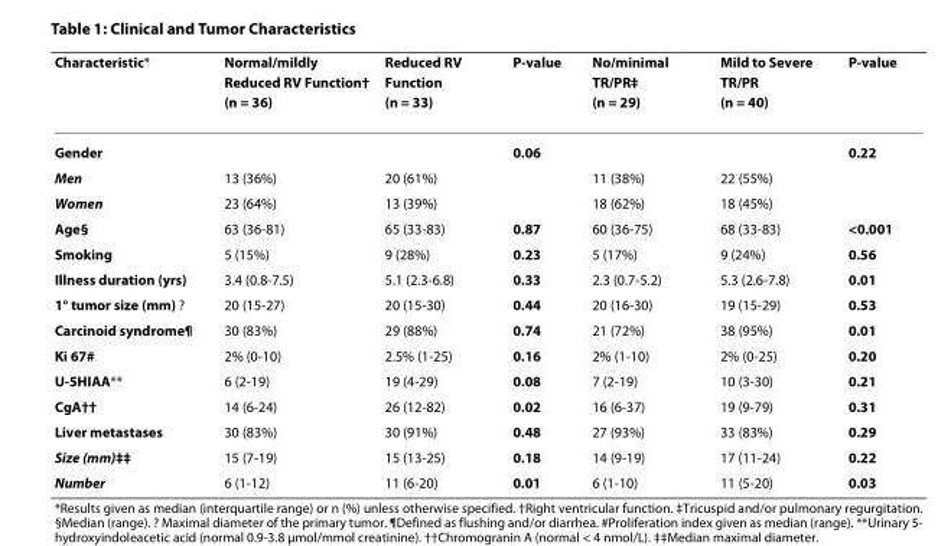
<table><thead><tr><td>Characteristic*</td><td>Normal/mildly Reduced RV Function† (n = 36)</td><td>Reduced RV Function (n = 33)</td><td>P-value</td><td>No/minimal TR/PR‡ (n = 29)</td><td>Mild to Severe TR/PR (n = 40)</td><td>P-value</td></tr></thead><tbody><tr><td>Gender</td><td></td><td></td><td>0.06</td><td></td><td></td><td>0.22</td></tr><tr><td>Men</td><td>13 (36%)</td><td>20 (61%)</td><td></td><td>11 (38%)</td><td>22 (55%)</td><td></td></tr><tr><td>Women</td><td>23 (64%)</td><td>13 (39%)</td><td></td><td>18 (62%)</td><td>18 (45%)</td><td></td></tr><tr><td>Age§</td><td>63 (36-81)</td><td>65 (33-83)</td><td>0.87</td><td>60 (36-75)</td><td>68 (33-83)</td><td>&lt;0.001</td></tr><tr><td>Smoking</td><td>5 (15%)</td><td>9 (28%)</td><td>0.23</td><td>5 (17%)</td><td>9 (24%)</td><td>0.56</td></tr><tr><td>Illness duration (yrs)</td><td>3.4 (0.8-7.5)</td><td>5.1 (2.3-6.8)</td><td>0.33</td><td>2.3 (0.7-5.2)</td><td>5.3 (2.6-7.8)</td><td>0.01</td></tr><tr><td>1° tumor size (mm) ∥</td><td>20 (15-27)</td><td>20 (15-30)</td><td>0.44</td><td>20 (16-30)</td><td>19 (15-29)</td><td>0.53</td></tr><tr><td>Carcinoid syndrome¶</td><td>30 (83%)</td><td>29 (88%)</td><td>0.74</td><td>21 (72%)</td><td>38 (95%)</td><td>0.01</td></tr><tr><td>Ki 67#</td><td>2% (0-10)</td><td>2.5% (1-25)</td><td>0.16</td><td>2% (1-10)</td><td>2% (0-25)</td><td>0.20</td></tr><tr><td>U-5HIAA**</td><td>6 (2-19)</td><td>19 (4-29)</td><td>0.08</td><td>7 (2-19)</td><td>10 (3-30)</td><td>0.21</td></tr><tr><td>CgA††</td><td>14 (6-24)</td><td>26 (12-82)</td><td>0.02</td><td>16 (6-37)</td><td>19 (9-79)</td><td>0.31</td></tr><tr><td>Liver metastases</td><td>30 (83%)</td><td>30 (91%)</td><td>0.48</td><td>27 (93%)</td><td>33 (83%)</td><td>0.29</td></tr><tr><td>Size (mm)‡‡</td><td>15 (7-19)</td><td>15 (13-25)</td><td>0.18</td><td>14 (9-19)</td><td>17 (11-24)</td><td>0.22</td></tr><tr><td>Number</td><td>6 (1-12)</td><td>11 (6-20)</td><td>0.01</td><td>6 (1-10)</td><td>11 (5-20)</td><td>0.03</td></tr></tbody></table>